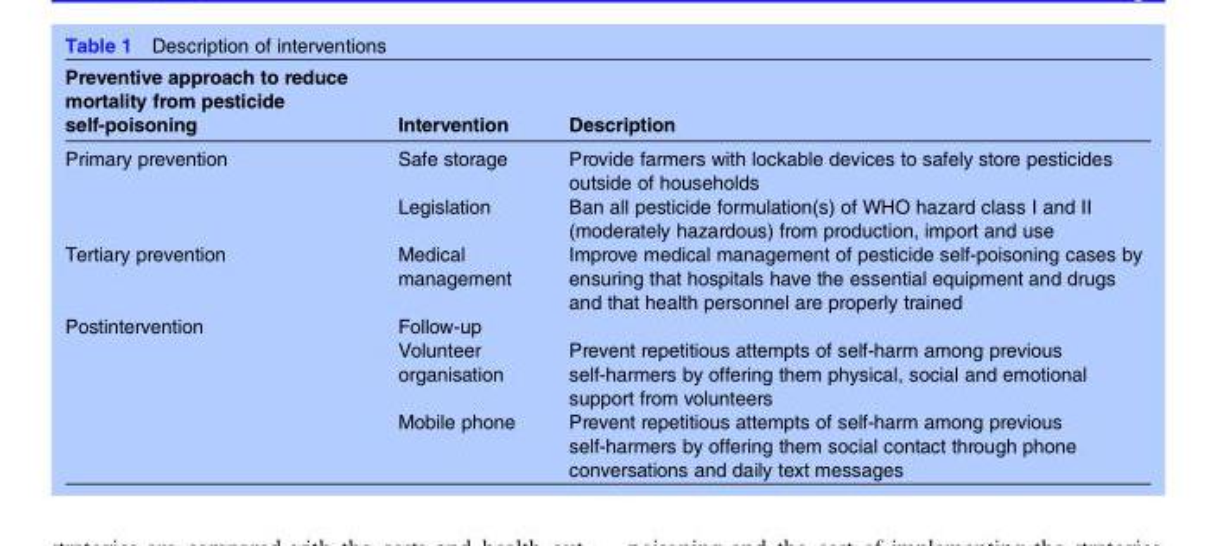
<table><thead><tr><td>Preventive approach to reduce mortality from pesticide self-poisoning</td><td>Intervention</td><td>Description</td></tr></thead><tbody><tr><td rowspan="2">Primary prevention</td><td>Safe storage</td><td>Provide farmers with lockable devices to safely store pesticides outside of households</td></tr><tr><td>Legislation</td><td>Ban all pesticide formulation(s) of WHO hazard class I and II (moderately hazardous) from production, import and use</td></tr><tr><td>Tertiary prevention</td><td>Medical management</td><td>Improve medical management of pesticide self-poisoning cases by ensuring that hospitals have the essential equipment and drugs and that health personnel are properly trained</td></tr><tr><td rowspan="3">Postintervention</td><td>Follow-up</td><td></td></tr><tr><td>Volunteer organisation</td><td>Prevent repetitious attempts of self-harm among previous self-harmers by offering them physical, social and emotional support from volunteers</td></tr><tr><td>Mobile phone</td><td>Prevent repetitious attempts of self-harm among previous self-harmers by offering them social contact through phone conversations and daily text messages</td></tr></tbody></table>